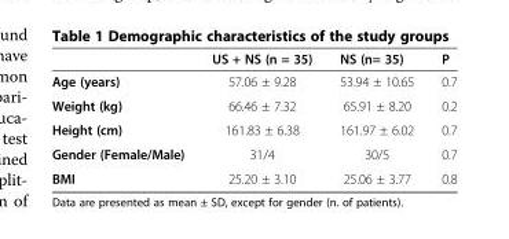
<table><thead><tr><td></td><td>US + NS (n = 35)</td><td>NS (n= 35)</td><td>P</td></tr></thead><tbody><tr><td>Age (years)</td><td>57.06 ± 9.28</td><td>53.94 ± 10.65</td><td>0.7</td></tr><tr><td>Weight (kg)</td><td>66.46 ± 7.32</td><td>65.91 ± 8.20</td><td>0.2</td></tr><tr><td>Height (cm)</td><td>161.83 ± 6.38</td><td>161.97 ± 6.02</td><td>0.7</td></tr><tr><td>Gender (Female/Male)</td><td>31/4</td><td>30/5</td><td>0.7</td></tr><tr><td>BMI</td><td>25.20 ± 3.10</td><td>25.06 ± 3.77</td><td>0.8</td></tr></tbody></table>